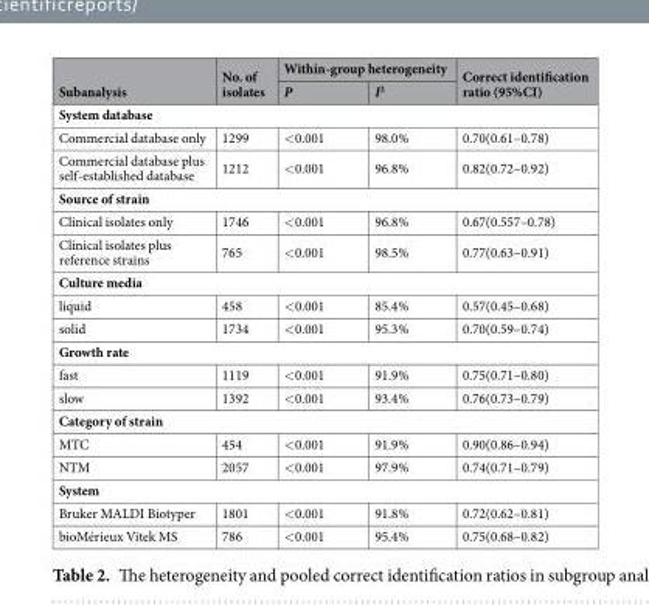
<table><thead><tr><td rowspan="2">Subanalysis</td><td rowspan="2">No. of isolates</td><td colspan="2">Within-group heterogeneity</td><td rowspan="2">Correct identification ratio (95%CI)</td></tr><tr><td>P</td><td>I<sup>2</sup></td></tr></thead><tbody><tr><td colspan="5">System database</td></tr><tr><td>Commercial database only</td><td>1299</td><td>&lt;0.001</td><td>98.0%</td><td>0.70(0.61–0.78)</td></tr><tr><td>Commercial database plus self-established database</td><td>1212</td><td>&lt;0.001</td><td>96.8%</td><td>0.82(0.72–0.92)</td></tr><tr><td colspan="5">Source of strain</td></tr><tr><td>Clinical isolates only</td><td>1746</td><td>&lt;0.001</td><td>96.8%</td><td>0.67(0.557–0.78)</td></tr><tr><td>Clinical isolates plus reference strains</td><td>765</td><td>&lt;0.001</td><td>98.5%</td><td>0.77(0.63–0.91)</td></tr><tr><td colspan="5">Culture media</td></tr><tr><td>liquid</td><td>458</td><td>&lt;0.001</td><td>85.4%</td><td>0.57(0.45–0.68)</td></tr><tr><td>solid</td><td>1734</td><td>&lt;0.001</td><td>95.3%</td><td>0.70(0.59–0.74)</td></tr><tr><td colspan="5">Growth rate</td></tr><tr><td>fast</td><td>1119</td><td>&lt;0.001</td><td>91.9%</td><td>0.75(0.71–0.80)</td></tr><tr><td>slow</td><td>1392</td><td>&lt;0.001</td><td>93.4%</td><td>0.76(0.73–0.79)</td></tr><tr><td colspan="5">Category of strain</td></tr><tr><td>MTC</td><td>454</td><td>&lt;0.001</td><td>91.9%</td><td>0.90(0.86–0.94)</td></tr><tr><td>NTM</td><td>2057</td><td>&lt;0.001</td><td>97.9%</td><td>0.74(0.71–0.79)</td></tr><tr><td colspan="5">System</td></tr><tr><td>Bruker MALDI Biotyper</td><td>1801</td><td>&lt;0.001</td><td>91.8%</td><td>0.72(0.62–0.81)</td></tr><tr><td>bioMérieux Vitek MS</td><td>786</td><td>&lt;0.001</td><td>95.4%</td><td>0.75(0.68–0.82)</td></tr></tbody></table>